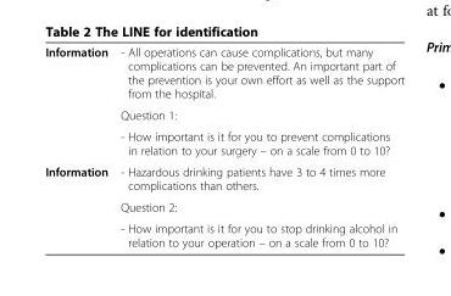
<table><tbody><tr><td rowspan="3">Information</td><td>- All operations can cause complications, but many complications can be prevented. An important part of the prevention is your own effort as well as the support from the hospital.</td></tr><tr><td>Question 1:</td></tr><tr><td>- How important is it for you to prevent complications in relation to your surgery – on a scale from 0 to 10?</td></tr><tr><td rowspan="3">Information</td><td>- Hazardous drinking patients have 3 to 4 times more complications than others.</td></tr><tr><td>Question 2:</td></tr><tr><td>- How important is it for you to stop drinking alcohol in relation to your operation – on a scale from 0 to 10?</td></tr></tbody></table>